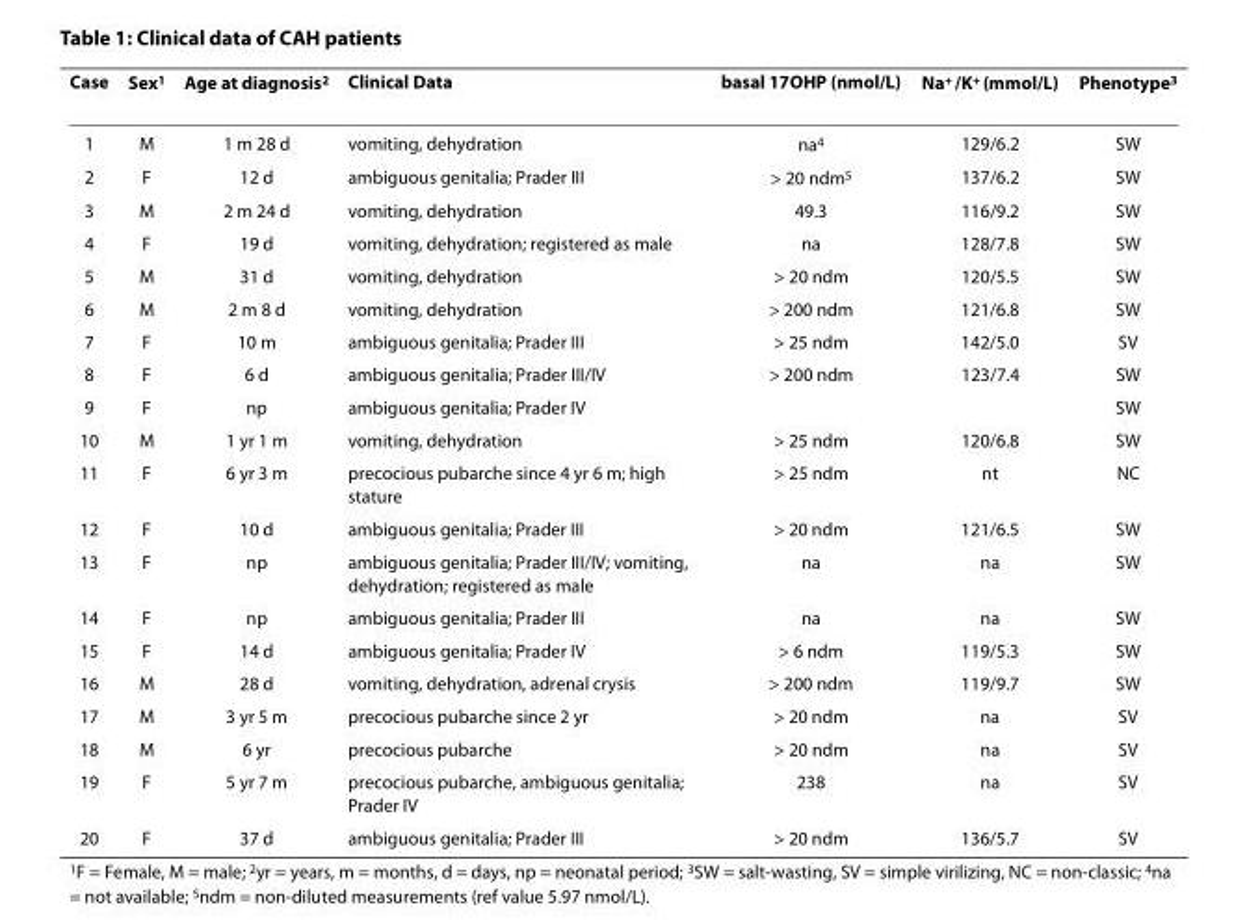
<table><thead><tr><td>Case</td><td>Sex<sup>1</sup></td><td>Age at diagnosis<sup>2</sup></td><td>Clinical Data</td><td>basal 17OHP (nmol/L)</td><td>Na<sup>+</sup> /K<sup>+</sup> (mmol/L)</td><td>Phenotype<sup>3</sup></td></tr></thead><tbody><tr><td>1</td><td>M</td><td>1 m 28 d</td><td>vomiting, dehydration</td><td>na<sup>4</sup></td><td>129/6.2</td><td>SW</td></tr><tr><td>2</td><td>F</td><td>12 d</td><td>ambiguous genitalia; Prader III</td><td>&gt; 20 ndm<sup>5</sup></td><td>137/6.2</td><td>SW</td></tr><tr><td>3</td><td>M</td><td>2 m 24 d</td><td>vomiting, dehydration</td><td>49.3</td><td>116/9.2</td><td>SW</td></tr><tr><td>4</td><td>F</td><td>19 d</td><td>vomiting, dehydration; registered as male</td><td>na</td><td>128/7.8</td><td>SW</td></tr><tr><td>5</td><td>M</td><td>31 d</td><td>vomiting, dehydration</td><td>&gt; 20 ndm</td><td>120/5.5</td><td>SW</td></tr><tr><td>6</td><td>M</td><td>2 m 8 d</td><td>vomiting, dehydration</td><td>&gt; 200 ndm</td><td>121/6.8</td><td>SW</td></tr><tr><td>7</td><td>F</td><td>10 m</td><td>ambiguous genitalia; Prader III</td><td>&gt; 25 ndm</td><td>142/5.0</td><td>SV</td></tr><tr><td>8</td><td>F</td><td>6 d</td><td>ambiguous genitalia; Prader III/IV</td><td>&gt; 200 ndm</td><td>123/7.4</td><td>SW</td></tr><tr><td>9</td><td>F</td><td>np</td><td>ambiguous genitalia; Prader IV</td><td></td><td></td><td>SW</td></tr><tr><td>10</td><td>M</td><td>1 yr 1 m</td><td>vomiting, dehydration</td><td>&gt; 25 ndm</td><td>120/6.8</td><td>SW</td></tr><tr><td>11</td><td>F</td><td>6 yr 3 m</td><td>precocious pubarche since 4 yr 6 m; high stature</td><td>&gt; 25 ndm</td><td>nt</td><td>NC</td></tr><tr><td>12</td><td>F</td><td>10 d</td><td>ambiguous genitalia; Prader III</td><td>&gt; 20 ndm</td><td>121/6.5</td><td>SW</td></tr><tr><td>13</td><td>F</td><td>np</td><td>ambiguous genitalia; Prader III/IV; vomiting, dehydration; registered as male</td><td>na</td><td>na</td><td>SW</td></tr><tr><td>14</td><td>F</td><td>np</td><td>ambiguous genitalia; Prader III</td><td>na</td><td>na</td><td>SW</td></tr><tr><td>15</td><td>F</td><td>14 d</td><td>ambiguous genitalia; Prader IV</td><td>&gt; 6 ndm</td><td>119/5.3</td><td>SW</td></tr><tr><td>16</td><td>M</td><td>28 d</td><td>vomiting, dehydration, adrenal crysis</td><td>&gt; 200 ndm</td><td>119/9.7</td><td>SW</td></tr><tr><td>17</td><td>M</td><td>3 yr 5 m</td><td>precocious pubarche since 2 yr</td><td>&gt; 20 ndm</td><td>na</td><td>SV</td></tr><tr><td>18</td><td>M</td><td>6 yr</td><td>precocious pubarche</td><td>&gt; 20 ndm</td><td>na</td><td>SV</td></tr><tr><td>19</td><td>F</td><td>5 yr 7 m</td><td>precocious pubarche, ambiguous genitalia; Prader IV</td><td>238</td><td>na</td><td>SV</td></tr><tr><td>20</td><td>F</td><td>37 d</td><td>ambiguous genitalia; Prader III</td><td>&gt; 20 ndm</td><td>136/5.7</td><td>SV</td></tr></tbody></table>